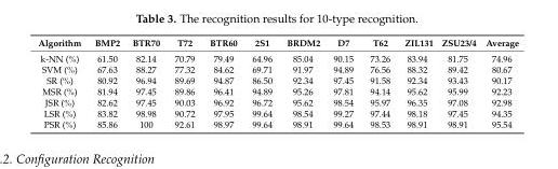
<table><thead><tr><td>Algorithm</td><td>BMP2</td><td>BTR70</td><td>T72</td><td>BTR60</td><td>2S1</td><td>BRDM2</td><td>D7</td><td>T62</td><td>ZIL131</td><td>ZSU23/4</td><td>Average</td></tr></thead><tbody><tr><td>k-NN (%)</td><td>61.50</td><td>82.14</td><td>70.79</td><td>79.49</td><td>64.96</td><td>85.04</td><td>90.15</td><td>73.26</td><td>83.94</td><td>81.75</td><td>74.96</td></tr><tr><td>SVM (%)</td><td>67.63</td><td>88.27</td><td>77.32</td><td>84.62</td><td>69.71</td><td>91.97</td><td>94.89</td><td>76.56</td><td>88.32</td><td>89.42</td><td>80.67</td></tr><tr><td>SR (%)</td><td>80.92</td><td>96.94</td><td>89.69</td><td>94.87</td><td>86.50</td><td>92.34</td><td>97.45</td><td>91.58</td><td>92.34</td><td>93.43</td><td>90.17</td></tr><tr><td>MSR (%)</td><td>81.94</td><td>97.45</td><td>89.86</td><td>96.41</td><td>94.89</td><td>95.26</td><td>97.81</td><td>94.14</td><td>95.62</td><td>95.99</td><td>92.23</td></tr><tr><td>JSR (%)</td><td>82.62</td><td>97.45</td><td>90.03</td><td>96.92</td><td>96.72</td><td>95.62</td><td>98.54</td><td>95.97</td><td>96.35</td><td>97.08</td><td>92.98</td></tr><tr><td>LSR (%)</td><td>83.82</td><td>98.98</td><td>90.72</td><td>97.95</td><td>99.64</td><td>98.54</td><td>99.27</td><td>97.44</td><td>98.18</td><td>97.45</td><td>94.35</td></tr><tr><td>PSR (%)</td><td>85.86</td><td>100</td><td>92.61</td><td>98.97</td><td>99.64</td><td>98.91</td><td>99.64</td><td>98.53</td><td>98.91</td><td>98.91</td><td>95.54</td></tr></tbody></table>